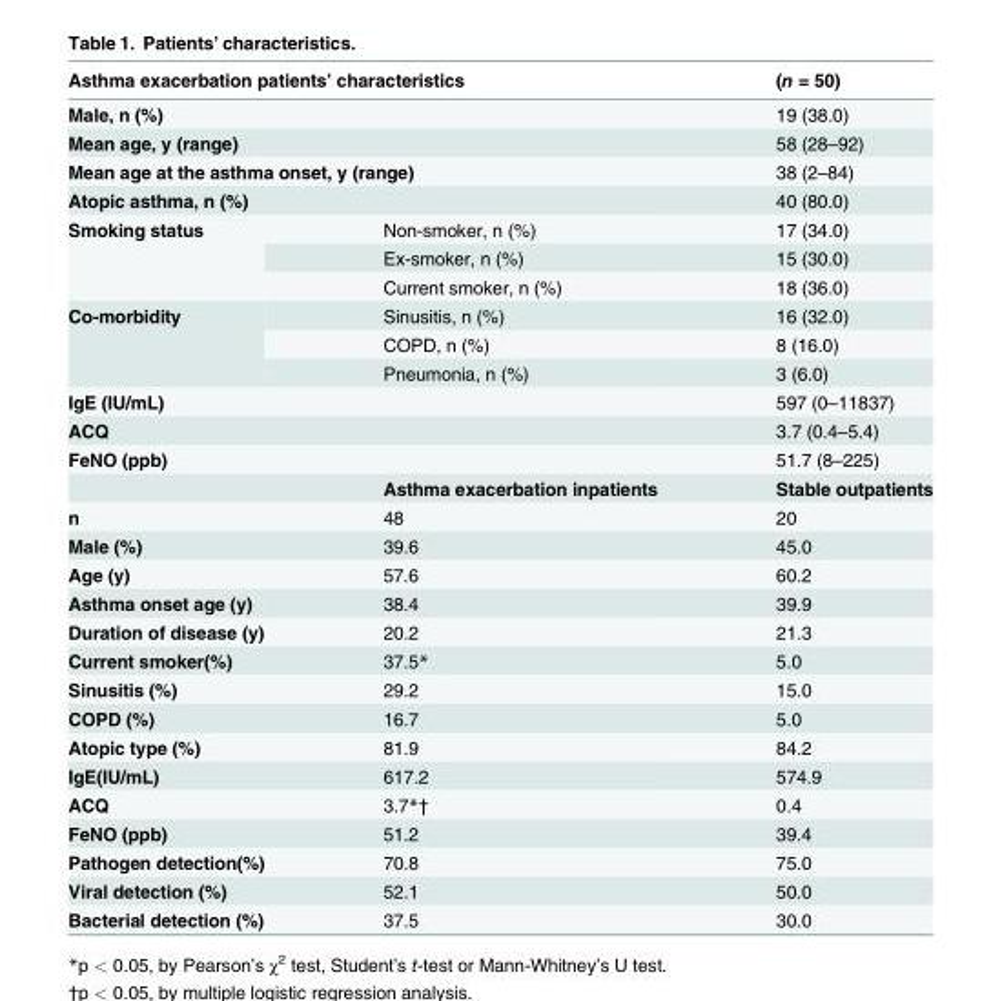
<table><thead><tr><td colspan="2">Asthma exacerbation patients’ characteristics</td><td>(n = 50)</td></tr></thead><tbody><tr><td colspan="2">Male, n (%)</td><td>19 (38.0)</td></tr><tr><td colspan="2">Mean age, y (range)</td><td>58 (28–92)</td></tr><tr><td colspan="2">Mean age at the asthma onset, y (range)</td><td>38 (2–84)</td></tr><tr><td colspan="2">Atopic asthma, n (%)</td><td>40 (80.0)</td></tr><tr><td rowspan="3">Smoking status</td><td>Non-smoker, n (%)</td><td>17 (34.0)</td></tr><tr><td>Ex-smoker, n (%)</td><td>15 (30.0)</td></tr><tr><td>Current smoker, n (%)</td><td>18 (36.0)</td></tr><tr><td rowspan="3">Co-morbidity</td><td>Sinusitis, n (%)</td><td>16 (32.0)</td></tr><tr><td>COPD, n (%)</td><td>8 (16.0)</td></tr><tr><td>Pneumonia, n (%)</td><td>3 (6.0)</td></tr><tr><td>IgE (IU/mL)</td><td></td><td>597 (0–11837)</td></tr><tr><td>ACQ</td><td></td><td>3.7 (0.4–5.4)</td></tr><tr><td rowspan="2">FeNO (ppb)</td><td></td><td>51.7 (8–225)</td></tr><tr><td>Asthma exacerbation inpatients</td><td>Stable outpatients</td></tr><tr><td>n</td><td>48</td><td>20</td></tr><tr><td>Male (%)</td><td>39.6</td><td>45.0</td></tr><tr><td>Age (y)</td><td>57.6</td><td>60.2</td></tr><tr><td>Asthma onset age (y)</td><td>38.4</td><td>39.9</td></tr><tr><td>Duration of disease (y)</td><td>20.2</td><td>21.3</td></tr><tr><td>Current smoker(%)</td><td>37.5*</td><td>5.0</td></tr><tr><td>Sinusitis (%)</td><td>29.2</td><td>15.0</td></tr><tr><td>COPD (%)</td><td>16.7</td><td>5.0</td></tr><tr><td>Atopic type (%)</td><td>81.9</td><td>84.2</td></tr><tr><td>IgE(IU/mL)</td><td>617.2</td><td>574.9</td></tr><tr><td>ACQ</td><td>3.7*†</td><td>0.4</td></tr><tr><td>FeNO (ppb)</td><td>51.2</td><td>39.4</td></tr><tr><td>Pathogen detection(%)</td><td>70.8</td><td>75.0</td></tr><tr><td>Viral detection (%)</td><td>52.1</td><td>50.0</td></tr><tr><td>Bacterial detection (%)</td><td>37.5</td><td>30.0</td></tr></tbody></table>